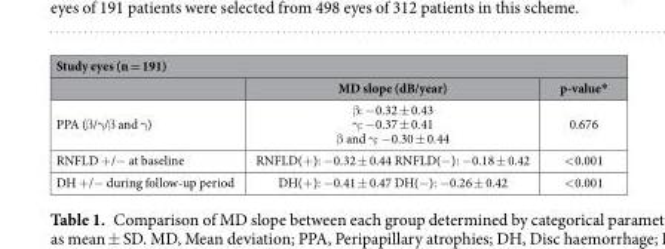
<table><thead><tr><td colspan="3">Study eyes (n = 191)</td></tr><tr><td></td><td>MD slope (dB/year)</td><td>p-value*</td></tr></thead><tbody><tr><td>PPA (β/γ/β and γ)</td><td>β: −0.32 ± 0.43 γ: −0.37 ± 0.41 β and γ: −0.30 ± 0.44</td><td>0.676</td></tr><tr><td>RNFLD +/− at baseline</td><td>RNFLD(+): −0.32 ± 0.44 RNFLD(−): −0.18 ± 0.42</td><td>&lt;0.001</td></tr><tr><td>DH +/− during follow-up period</td><td>DH(+): −0.41 ± 0.47 DH(−): −0.26 ± 0.42</td><td>&lt;0.001</td></tr></tbody></table>